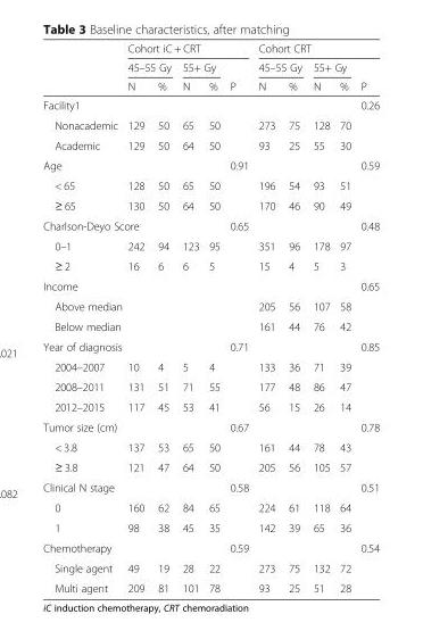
<table><thead><tr><td rowspan="3"></td><td colspan="5">Cohort iC + CRT</td><td colspan="5">Cohort CRT</td></tr><tr><td colspan="2">45–55 Gy</td><td colspan="2">55+ Gy</td><td rowspan="2">P</td><td colspan="2">45–55 Gy</td><td colspan="2">55+ Gy</td><td rowspan="2">P</td></tr><tr><td>N</td><td>%</td><td>N</td><td>%</td><td>N</td><td>%</td><td>N</td><td>%</td></tr></thead><tbody><tr><td colspan="10">Facility1</td><td>0.26</td></tr><tr><td>Nonacademic</td><td>129</td><td>50</td><td>65</td><td>50</td><td></td><td>273</td><td>75</td><td>128</td><td>70</td><td></td></tr><tr><td>Academic</td><td>129</td><td>50</td><td>64</td><td>50</td><td></td><td>93</td><td>25</td><td>55</td><td>30</td><td></td></tr><tr><td colspan="5">Age</td><td>0.91</td><td></td><td></td><td></td><td></td><td>0.59</td></tr><tr><td>&lt; 65</td><td>128</td><td>50</td><td>65</td><td>50</td><td></td><td>196</td><td>54</td><td>93</td><td>51</td><td></td></tr><tr><td>≥ 65</td><td>130</td><td>50</td><td>64</td><td>50</td><td></td><td>170</td><td>46</td><td>90</td><td>49</td><td></td></tr><tr><td colspan="5">Charlson-Deyo Score</td><td>0.65</td><td></td><td></td><td></td><td></td><td>0.48</td></tr><tr><td>0–1</td><td>242</td><td>94</td><td>123</td><td>95</td><td></td><td>351</td><td>96</td><td>178</td><td>97</td><td></td></tr><tr><td>≥ 2</td><td>16</td><td>6</td><td>6</td><td>5</td><td></td><td>15</td><td>4</td><td>5</td><td>3</td><td></td></tr><tr><td colspan="10">Income</td><td>0.65</td></tr><tr><td colspan="2">Above median</td><td></td><td></td><td></td><td></td><td>205</td><td>56</td><td>107</td><td>58</td><td></td></tr><tr><td colspan="2">Below median</td><td></td><td></td><td></td><td></td><td>161</td><td>44</td><td>76</td><td>42</td><td></td></tr><tr><td colspan="5">Year of diagnosis</td><td>0.71</td><td></td><td></td><td></td><td></td><td>0.85</td></tr><tr><td>2004–2007</td><td>10</td><td>4</td><td>5</td><td>4</td><td></td><td>133</td><td>36</td><td>71</td><td>39</td><td></td></tr><tr><td>2008–2011</td><td>131</td><td>51</td><td>71</td><td>55</td><td></td><td>177</td><td>48</td><td>86</td><td>47</td><td></td></tr><tr><td>2012–2015</td><td>117</td><td>45</td><td>53</td><td>41</td><td></td><td>56</td><td>15</td><td>26</td><td>14</td><td></td></tr><tr><td colspan="5">Tumor size (cm)</td><td>0.67</td><td></td><td></td><td></td><td></td><td>0.78</td></tr><tr><td>&lt; 3.8</td><td>137</td><td>53</td><td>65</td><td>50</td><td></td><td>161</td><td>44</td><td>78</td><td>43</td><td></td></tr><tr><td>≥ 3.8</td><td>121</td><td>47</td><td>64</td><td>50</td><td></td><td>205</td><td>56</td><td>105</td><td>57</td><td></td></tr><tr><td colspan="2">Clinical N stage</td><td></td><td></td><td></td><td>0.58</td><td></td><td></td><td></td><td></td><td>0.51</td></tr><tr><td>0</td><td>160</td><td>62</td><td>84</td><td>65</td><td></td><td>224</td><td>61</td><td>118</td><td>64</td><td></td></tr><tr><td>1</td><td>98</td><td>38</td><td>45</td><td>35</td><td></td><td>142</td><td>39</td><td>65</td><td>36</td><td></td></tr><tr><td colspan="5">Chemotherapy</td><td>0.59</td><td></td><td></td><td></td><td></td><td>0.54</td></tr><tr><td>Single agent</td><td>49</td><td>19</td><td>28</td><td>22</td><td></td><td>273</td><td>75</td><td>132</td><td>72</td><td></td></tr><tr><td>Multi agent</td><td>209</td><td>81</td><td>101</td><td>78</td><td></td><td>93</td><td>25</td><td>51</td><td>28</td><td></td></tr></tbody></table>